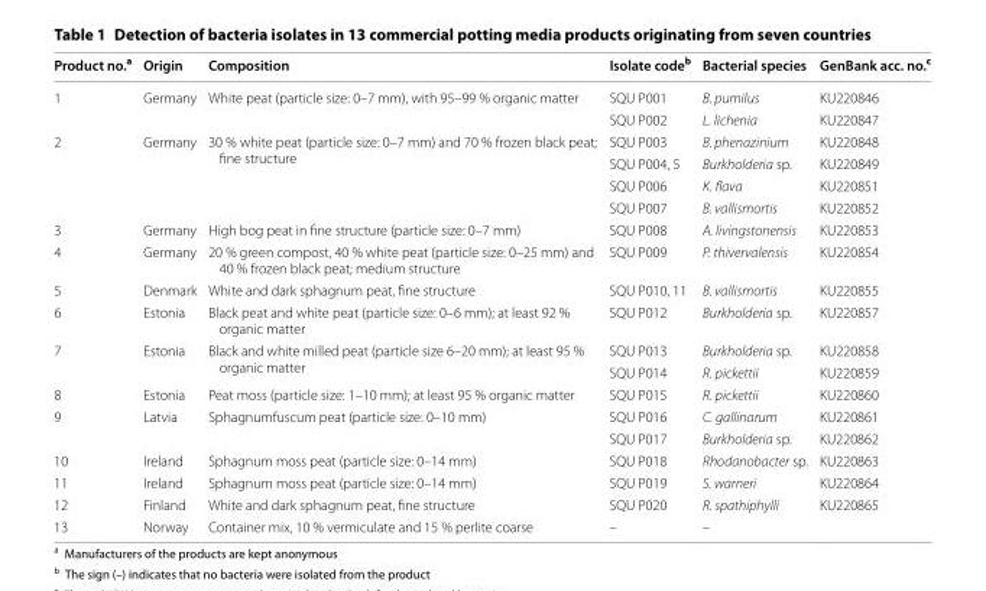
<table><thead><tr><td>Product no.<sup>a</sup></td><td>Origin</td><td>Composition</td><td>Isolate code<sup>b</sup></td><td>Bacterial species</td><td>GenBank acc. no.<sup>c</sup></td></tr></thead><tbody><tr><td rowspan="2">1</td><td rowspan="2">Germany</td><td rowspan="2">White peat (particle size: 0–7 mm), with 95–99 % organic matter</td><td>SQU P001</td><td>B. pumilus</td><td>KU220846</td></tr><tr><td>SQU P002</td><td>L. lichenia</td><td>KU220847</td></tr><tr><td rowspan="4">2</td><td rowspan="4">Germany</td><td rowspan="4">30 % white peat (particle size: 0–7 mm) and 70 % frozen black peat; fine structure</td><td>SQU P003</td><td>B. phenazinium</td><td>KU220848</td></tr><tr><td>SQU P004, 5</td><td>Burkholderia sp.</td><td>KU220849</td></tr><tr><td>SQU P006</td><td>K. flava</td><td>KU220851</td></tr><tr><td>SQU P007</td><td>B. vallismortis</td><td>KU220852</td></tr><tr><td>3</td><td>Germany</td><td>High bog peat in fine structure (particle size: 0–7 mm)</td><td>SQU P008</td><td>A. livingstonensis</td><td>KU220853</td></tr><tr><td>4</td><td>Germany</td><td>20 % green compost, 40 % white peat (particle size: 0–25 mm) and 40 % frozen black peat; medium structure</td><td>SQU P009</td><td>P. thivervalensis</td><td>KU220854</td></tr><tr><td>5</td><td>Denmark</td><td>White and dark sphagnum peat, fine structure</td><td>SQU P010, 11</td><td>B. vallismortis</td><td>KU220855</td></tr><tr><td>6</td><td>Estonia</td><td>Black peat and white peat (particle size: 0–6 mm); at least 92 % organic matter</td><td>SQU P012</td><td>Burkholderia sp.</td><td>KU220857</td></tr><tr><td rowspan="2">7</td><td rowspan="2">Estonia</td><td rowspan="2">Black and white milled peat (particle size 6–20 mm); at least 95 % organic matter</td><td>SQU P013</td><td>Burkholderia sp.</td><td>KU220858</td></tr><tr><td>SQU P014</td><td>R. pickettii</td><td>KU220859</td></tr><tr><td>8</td><td>Estonia</td><td>Peat moss (particle size: 1–10 mm); at least 95 % organic matter</td><td>SQU P015</td><td>R. pickettii</td><td>KU220860</td></tr><tr><td rowspan="2">9</td><td>Latvia</td><td>Sphagnumfuscum peat (particle size: 0–10 mm)</td><td>SQU P016</td><td>C. gallinarum</td><td>KU220861</td></tr><tr><td></td><td></td><td>SQU P017</td><td>Burkholderia sp.</td><td>KU220862</td></tr><tr><td>10</td><td>Ireland</td><td>Sphagnum moss peat (particle size: 0–14 mm)</td><td>SQU P018</td><td>Rhodanobacter sp.</td><td>KU220863</td></tr><tr><td>11</td><td>Ireland</td><td>Sphagnum moss peat (particle size: 0–14 mm)</td><td>SQU P019</td><td>S. warneri</td><td>KU220864</td></tr><tr><td>12</td><td>Finland</td><td>White and dark sphagnum peat, fine structure</td><td>SQU P020</td><td>R. spathiphylli</td><td>KU220865</td></tr><tr><td>13</td><td>Norway</td><td>Container mix, 10 % vermiculate and 15 % perlite coarse</td><td>–</td><td>–</td><td></td></tr></tbody></table>